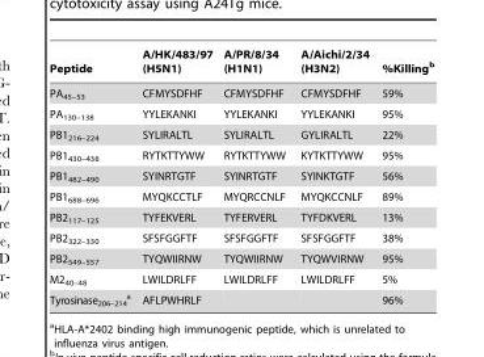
<table><thead><tr><td>Peptide</td><td>A/HK/483/97 (H5N1)</td><td>A/PR/8/34 (H1N1)</td><td>A/Aichi/2/34 (H3N2)</td><td>%Killing<sup>b</sup></td></tr></thead><tbody><tr><td>PA<sub>45–53</sub></td><td>CFMYSDFHF</td><td>CFMYSDFHF</td><td>CFMYSDFHF</td><td>59%</td></tr><tr><td>PA<sub>130–138</sub></td><td>YYLEKANKI</td><td>YYLEKANKI</td><td>YYLEKANKI</td><td>95%</td></tr><tr><td>PB1<sub>216–224</sub></td><td>SYLIRALTL</td><td>SYLIRALTL</td><td>GYLIRALTL</td><td>22%</td></tr><tr><td>PB1<sub>430–438</sub></td><td>RYTKTTYWW</td><td>RYTKTTYWW</td><td>KYTKTTYWW</td><td>95%</td></tr><tr><td>PB1<sub>482–490</sub></td><td>SYINRTGTF</td><td>SYINRTGTF</td><td>SYINKTGTF</td><td>56%</td></tr><tr><td>PB1<sub>688–696</sub></td><td>MYQKCCTLF</td><td>MYQRCCNLF</td><td>MYQKCCNLF</td><td>89%</td></tr><tr><td>PB2<sub>117–125</sub></td><td>TYFEKVERL</td><td>TYFERVERL</td><td>TYFDKVERL</td><td>13%</td></tr><tr><td>PB2<sub>322–330</sub></td><td>SFSFGGFTF</td><td>SFSFGGFTF</td><td>SFSFGGFTF</td><td>38%</td></tr><tr><td>PB2<sub>549–557</sub></td><td>TYQWIIRNW</td><td>TYQWIIRNW</td><td>TYQWVIRNW</td><td>95%</td></tr><tr><td>M2<sub>40–48</sub></td><td>LWILDRLFF</td><td>LWILDRLFF</td><td>LWILDRLFF</td><td>5%</td></tr><tr><td>Tyrosinase<sub>206–214</sub> a</td><td>AFLPWHRLF</td><td></td><td></td><td>96%</td></tr></tbody></table>